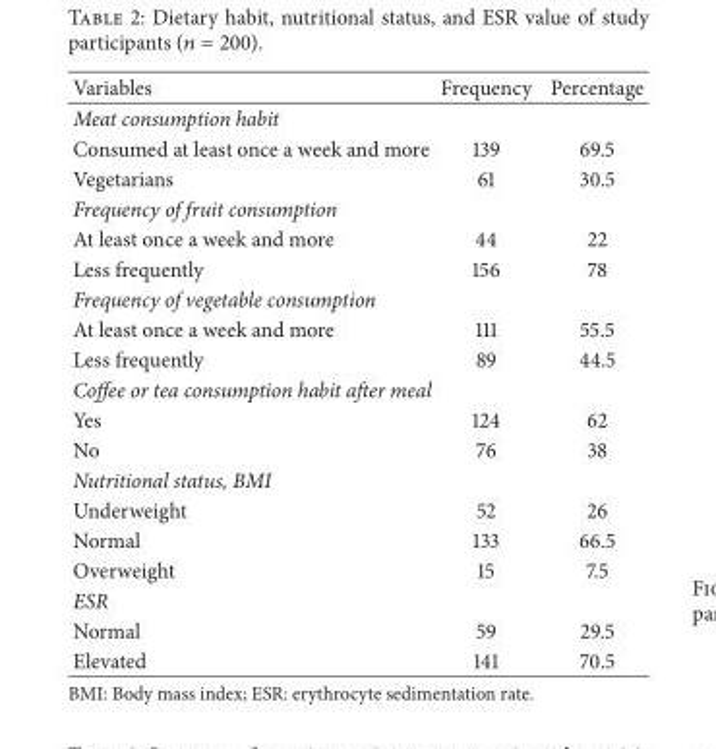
<table><thead><tr><td>Variables</td><td>Frequency</td><td>Percentage</td></tr></thead><tbody><tr><td colspan="3">Meat consumption habit</td></tr><tr><td>Consumed at least once a week and more</td><td>139</td><td>69.5</td></tr><tr><td>Vegetarians</td><td>61</td><td>30.5</td></tr><tr><td colspan="3">Frequency of fruit consumption</td></tr><tr><td>At least once a week and more</td><td>44</td><td>22</td></tr><tr><td>Less frequently</td><td>156</td><td>78</td></tr><tr><td colspan="3">Frequency of vegetable consumption</td></tr><tr><td>At least once a week and more</td><td>111</td><td>55.5</td></tr><tr><td>Less frequently</td><td>89</td><td>44.5</td></tr><tr><td colspan="3">Coffee or tea consumption habit after meal</td></tr><tr><td>Yes</td><td>124</td><td>62</td></tr><tr><td>No</td><td>76</td><td>38</td></tr><tr><td colspan="3">Nutritional status, BMI</td></tr><tr><td>Underweight</td><td>52</td><td>26</td></tr><tr><td>Normal</td><td>133</td><td>66.5</td></tr><tr><td>Overweight</td><td>15</td><td>7.5</td></tr><tr><td colspan="3">ESR</td></tr><tr><td>Normal</td><td>59</td><td>29.5</td></tr><tr><td>Elevated</td><td>141</td><td>70.5</td></tr></tbody></table>